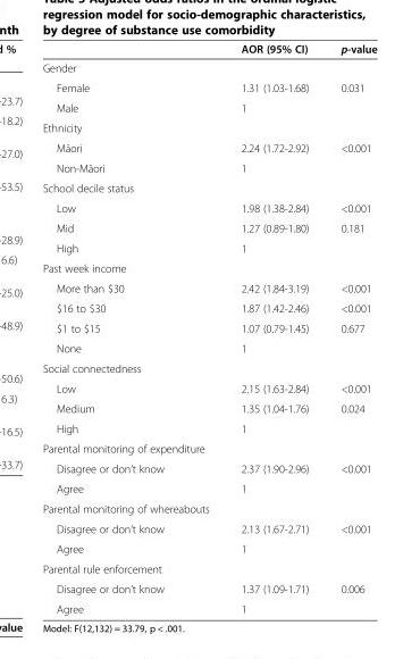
<table><thead><tr><td></td><td>AOR (95% CI)</td><td>p-value</td></tr></thead><tbody><tr><td colspan="3">Gender</td></tr><tr><td>Female</td><td>1.31 (1.03-1.68)</td><td>0.031</td></tr><tr><td>Male</td><td>1</td><td></td></tr><tr><td colspan="3">Ethnicity</td></tr><tr><td>Māori</td><td>2.24 (1.72-2.92)</td><td>&lt;0.001</td></tr><tr><td>Non-Māori</td><td>1</td><td></td></tr><tr><td colspan="3">School decile status</td></tr><tr><td>Low</td><td>1.98 (1.38-2.84)</td><td>&lt;0.001</td></tr><tr><td>Mid</td><td>1.27 (0.89-1.80)</td><td>0.181</td></tr><tr><td>High</td><td>1</td><td></td></tr><tr><td colspan="3">Past week income</td></tr><tr><td>More than $30</td><td>2.42 (1.84-3.19)</td><td>&lt;0.001</td></tr><tr><td>$16 to $30</td><td>1.87 (1.42-2.46)</td><td>&lt;0.001</td></tr><tr><td>$1 to $15</td><td>1.07 (0.79-1.45)</td><td>0.677</td></tr><tr><td>None</td><td>1</td><td></td></tr><tr><td colspan="3">Social connectedness</td></tr><tr><td>Low</td><td>2.15 (1.63-2.84)</td><td>&lt;0.001</td></tr><tr><td>Medium</td><td>1.35 (1.04-1.76)</td><td>0.024</td></tr><tr><td>High</td><td>1</td><td></td></tr><tr><td colspan="3">Parental monitoring of expenditure</td></tr><tr><td>Disagree or don’t know</td><td>2.37 (1.90-2.96)</td><td>&lt;0.001</td></tr><tr><td>Agree</td><td>1</td><td></td></tr><tr><td colspan="3">Parental monitoring of whereabouts</td></tr><tr><td>Disagree or don’t know</td><td>2.13 (1.67-2.71)</td><td>&lt;0.001</td></tr><tr><td>Agree</td><td>1</td><td></td></tr><tr><td colspan="3">Parental rule enforcement</td></tr><tr><td>Disagree or don’t know</td><td>1.37 (1.09-1.71)</td><td>0.006</td></tr><tr><td>Agree</td><td>1</td><td></td></tr></tbody></table>